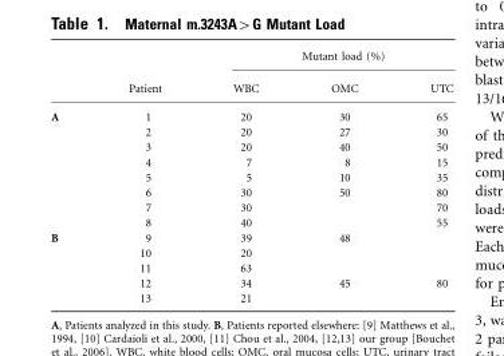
<table><thead><tr><td rowspan="2"></td><td rowspan="2">Patient</td><td colspan="3">Mutant load (%)</td></tr><tr><td>WBC</td><td>OMC</td><td>UTC</td></tr></thead><tbody><tr><td rowspan="8">A</td><td>1</td><td>20</td><td>30</td><td>65</td></tr><tr><td>2</td><td>20</td><td>27</td><td>30</td></tr><tr><td>3</td><td>20</td><td>40</td><td>50</td></tr><tr><td>4</td><td>7</td><td>8</td><td>15</td></tr><tr><td>5</td><td>5</td><td>10</td><td>35</td></tr><tr><td>6</td><td>30</td><td>50</td><td>80</td></tr><tr><td>7</td><td>30</td><td></td><td>70</td></tr><tr><td>8</td><td>40</td><td></td><td>55</td></tr><tr><td rowspan="5">B</td><td>9</td><td>39</td><td>48</td><td></td></tr><tr><td>10</td><td>20</td><td></td><td></td></tr><tr><td>11</td><td>63</td><td></td><td></td></tr><tr><td>12</td><td>34</td><td>45</td><td>80</td></tr><tr><td>13</td><td>21</td><td></td><td></td></tr></tbody></table>